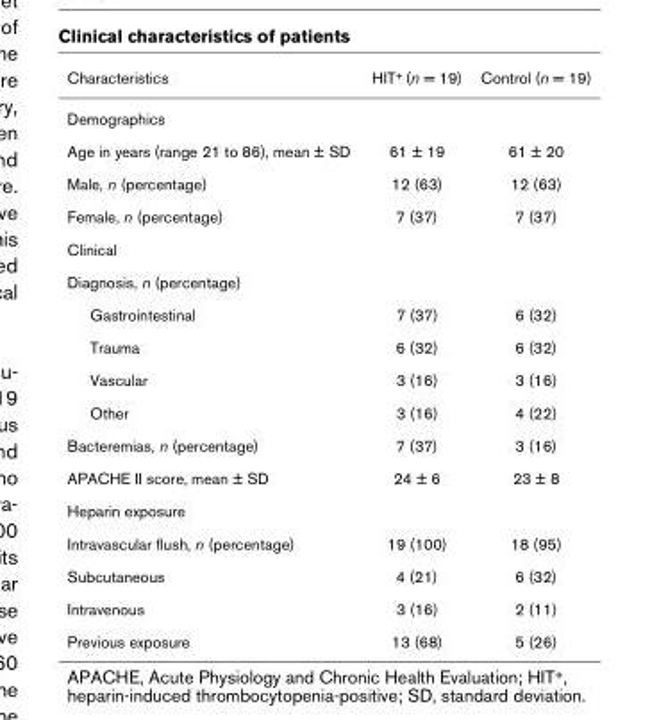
<table><thead><tr><td>Characteristics</td><td>HIT+ (n = 19)</td><td>Control (n = 19)</td></tr></thead><tbody><tr><td colspan="3">Demographics</td></tr><tr><td>Age in years (range 21 to 86), mean ± SD</td><td>61 ± 19</td><td>61 ± 20</td></tr><tr><td>Male, n (percentage)</td><td>12 (63)</td><td>12 (63)</td></tr><tr><td>Female, n (percentage)</td><td>7 (37)</td><td>7 (37)</td></tr><tr><td colspan="3">Clinical</td></tr><tr><td colspan="3">Diagnosis, n (percentage)</td></tr><tr><td>Gastrointestinal</td><td>7 (37)</td><td>6 (32)</td></tr><tr><td>Trauma</td><td>6 (32)</td><td>6 (32)</td></tr><tr><td>Vascular</td><td>3 (16)</td><td>3 (16)</td></tr><tr><td>Other</td><td>3 (16)</td><td>4 (22)</td></tr><tr><td>Bacteremias, n (percentage)</td><td>7 (37)</td><td>3 (16)</td></tr><tr><td>APACHE II score, mean ± SD</td><td>24 ± 6</td><td>23 ± 8</td></tr><tr><td colspan="3">Heparin exposure</td></tr><tr><td>Intravascular flush, n (percentage)</td><td>19 (100)</td><td>18 (95)</td></tr><tr><td>Subcutaneous</td><td>4 (21)</td><td>6 (32)</td></tr><tr><td>Intravenous</td><td>3 (16)</td><td>2 (11)</td></tr><tr><td>Previous exposure</td><td>13 (68)</td><td>5 (26)</td></tr></tbody></table>